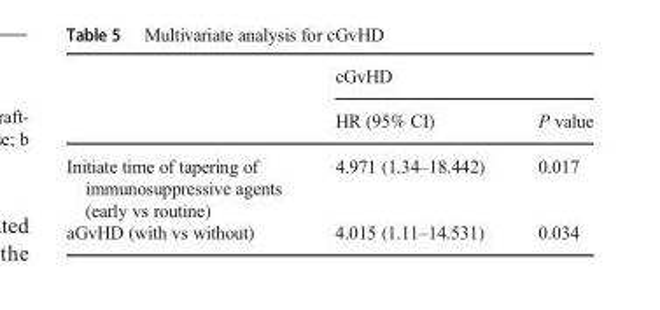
<table><thead><tr><td rowspan="2"></td><td colspan="2">cGvHD</td></tr><tr><td>HR (95% CI)</td><td>P value</td></tr></thead><tbody><tr><td>Initiate time of tapering of immunosuppressive agents (early vs routine)</td><td>4.971 (1.34–18.442)</td><td>0.017</td></tr><tr><td>aGvHD (with vs without)</td><td>4.015 (1.11–14.531)</td><td>0.034</td></tr></tbody></table>